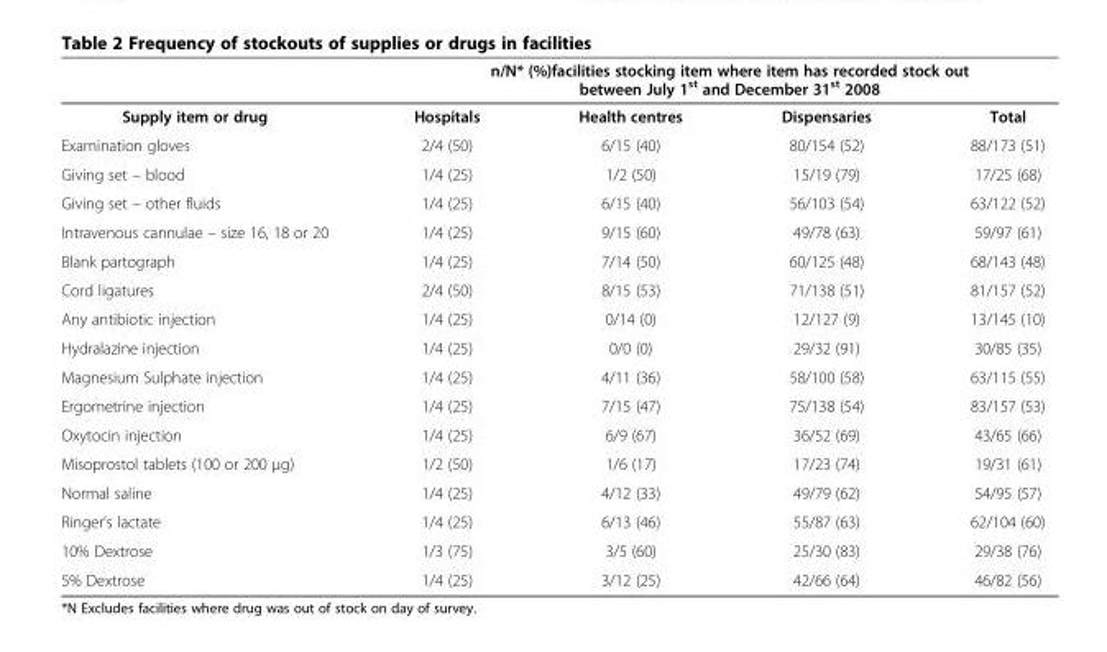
<table><thead><tr><td rowspan="2">Supply item or drug</td><td colspan="4">n/N* (%)facilities stocking item where item has recorded stock out between July 1<sup>st</sup> and December 31<sup>st</sup> 2008</td></tr><tr><td>Hospitals</td><td>Health centres</td><td>Dispensaries</td><td>Total</td></tr></thead><tbody><tr><td>Examination gloves</td><td>2/4 (50)</td><td>6/15 (40)</td><td>80/154 (52)</td><td>88/173 (51)</td></tr><tr><td>Giving set – blood</td><td>1/4 (25)</td><td>1/2 (50)</td><td>15/19 (79)</td><td>17/25 (68)</td></tr><tr><td>Giving set – other fluids</td><td>1/4 (25)</td><td>6/15 (40)</td><td>56/103 (54)</td><td>63/122 (52)</td></tr><tr><td>Intravenous cannulae – size 16, 18 or 20</td><td>1/4 (25)</td><td>9/15 (60)</td><td>49/78 (63)</td><td>59/97 (61)</td></tr><tr><td>Blank partograph</td><td>1/4 (25)</td><td>7/14 (50)</td><td>60/125 (48)</td><td>68/143 (48)</td></tr><tr><td>Cord ligatures</td><td>2/4 (50)</td><td>8/15 (53)</td><td>71/138 (51)</td><td>81/157 (52)</td></tr><tr><td>Any antibiotic injection</td><td>1/4 (25)</td><td>0/14 (0)</td><td>12/127 (9)</td><td>13/145 (10)</td></tr><tr><td>Hydralazine injection</td><td>1/4 (25)</td><td>0/0 (0)</td><td>29/32 (91)</td><td>30/85 (35)</td></tr><tr><td>Magnesium Sulphate injection</td><td>1/4 (25)</td><td>4/11 (36)</td><td>58/100 (58)</td><td>63/115 (55)</td></tr><tr><td>Ergometrine injection</td><td>1/4 (25)</td><td>7/15 (47)</td><td>75/138 (54)</td><td>83/157 (53)</td></tr><tr><td>Oxytocin injection</td><td>1/4 (25)</td><td>6/9 (67)</td><td>36/52 (69)</td><td>43/65 (66)</td></tr><tr><td>Misoprostol tablets (100 or 200 μg)</td><td>1/2 (50)</td><td>1/6 (17)</td><td>17/23 (74)</td><td>19/31 (61)</td></tr><tr><td>Normal saline</td><td>1/4 (25)</td><td>4/12 (33)</td><td>49/79 (62)</td><td>54/95 (57)</td></tr><tr><td>Ringer’s lactate</td><td>1/4 (25)</td><td>6/13 (46)</td><td>55/87 (63)</td><td>62/104 (60)</td></tr><tr><td>10% Dextrose</td><td>1/3 (75)</td><td>3/5 (60)</td><td>25/30 (83)</td><td>29/38 (76)</td></tr><tr><td>5% Dextrose</td><td>1/4 (25)</td><td>3/12 (25)</td><td>42/66 (64)</td><td>46/82 (56)</td></tr></tbody></table>